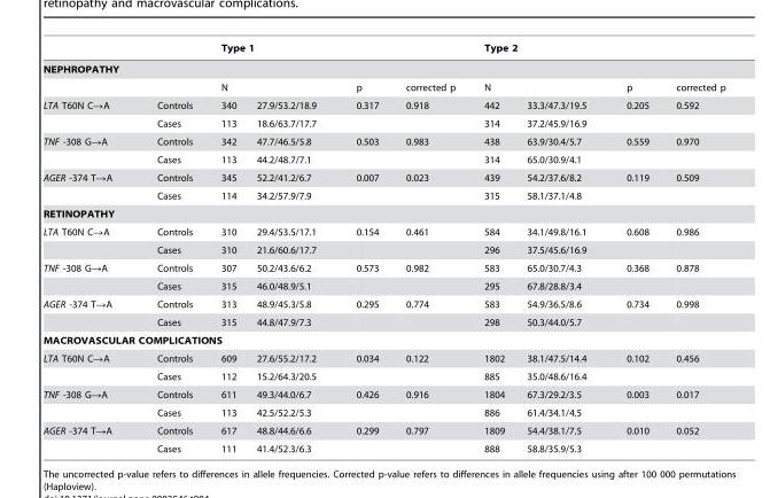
<table><thead><tr><td></td><td></td><td colspan="4">Type 1</td><td colspan="4">Type 2</td></tr><tr><td colspan="10">NEPHROPATHY</td></tr><tr><td></td><td></td><td>N</td><td></td><td>p</td><td>corrected p</td><td>N</td><td></td><td>p</td><td>corrected p</td></tr></thead><tbody><tr><td rowspan="2">LTA T60N C→A</td><td>Controls</td><td>340</td><td>27.9/53.2/18.9</td><td>0.317</td><td>0.918</td><td>442</td><td>33.3/47.3/19.5</td><td>0.205</td><td>0.592</td></tr><tr><td>Cases</td><td>113</td><td>18.6/63.7/17.7</td><td></td><td></td><td>314</td><td>37.2/45.9/16.9</td><td></td><td></td></tr><tr><td rowspan="2">TNF -308 G→A</td><td>Controls</td><td>342</td><td>47.7/46.5/5.8</td><td>0.503</td><td>0.983</td><td>438</td><td>63.9/30.4/5.7</td><td>0.559</td><td>0.970</td></tr><tr><td>Cases</td><td>113</td><td>44.2/48.7/7.1</td><td></td><td></td><td>314</td><td>65.0/30.9/4.1</td><td></td><td></td></tr><tr><td rowspan="2">AGER -374 T→A</td><td>Controls</td><td>345</td><td>52.2/41.2/6.7</td><td>0.007</td><td>0.023</td><td>439</td><td>54.2/37.6/8.2</td><td>0.119</td><td>0.509</td></tr><tr><td>Cases</td><td>114</td><td>34.2/57.9/7.9</td><td></td><td></td><td>315</td><td>58.1/37.1/4.8</td><td></td><td></td></tr><tr><td colspan="10">RETINOPATHY</td></tr><tr><td rowspan="2">LTA T60N C→A</td><td>Controls</td><td>310</td><td>29.4/53.5/17.1</td><td>0.154</td><td>0.461</td><td>584</td><td>34.1/49.8/16.1</td><td>0.608</td><td>0.986</td></tr><tr><td>Cases</td><td>310</td><td>21.6/60.6/17.7</td><td></td><td></td><td>296</td><td>37.5/45.6/16.9</td><td></td><td></td></tr><tr><td rowspan="2">TNF -308 G→A</td><td>Controls</td><td>307</td><td>50.2/43.6/6.2</td><td>0.573</td><td>0.982</td><td>583</td><td>65.0/30.7/4.3</td><td>0.368</td><td>0.878</td></tr><tr><td>Cases</td><td>315</td><td>46.0/48.9/5.1</td><td></td><td></td><td>295</td><td>67.8/28.8/3.4</td><td></td><td></td></tr><tr><td rowspan="2">AGER -374 T→A</td><td>Controls</td><td>313</td><td>48.9/45.3/5.8</td><td>0.295</td><td>0.774</td><td>583</td><td>54.9/36.5/8.6</td><td>0.734</td><td>0.998</td></tr><tr><td>Cases</td><td>315</td><td>44.8/47.9/7.3</td><td></td><td></td><td>298</td><td>50.3/44.0/5.7</td><td></td><td></td></tr><tr><td colspan="10">MACROVASCULAR COMPLICATIONS</td></tr><tr><td rowspan="2">LTA T60N C→A</td><td>Controls</td><td>609</td><td>27.6/55.2/17.2</td><td>0.034</td><td>0.122</td><td>1802</td><td>38.1/47.5/14.4</td><td>0.102</td><td>0.456</td></tr><tr><td>Cases</td><td>112</td><td>15.2/64.3/20.5</td><td></td><td></td><td>885</td><td>35.0/48.6/16.4</td><td></td><td></td></tr><tr><td rowspan="2">TNF -308 G→A</td><td>Controls</td><td>611</td><td>49.3/44.0/6.7</td><td>0.426</td><td>0.916</td><td>1804</td><td>67.3/29.2/3.5</td><td>0.003</td><td>0.017</td></tr><tr><td>Cases</td><td>113</td><td>42.5/52.2/5.3</td><td></td><td></td><td>886</td><td>61.4/34.1/4.5</td><td></td><td></td></tr><tr><td rowspan="2">AGER -374 T→A</td><td>Controls</td><td>617</td><td>48.8/44.6/6.6</td><td>0.299</td><td>0.797</td><td>1809</td><td>54.4/38.1/7.5</td><td>0.010</td><td>0.052</td></tr><tr><td>Cases</td><td>111</td><td>41.4/52.3/6.3</td><td></td><td></td><td>888</td><td>58.8/35.9/5.3</td><td></td><td></td></tr></tbody></table>